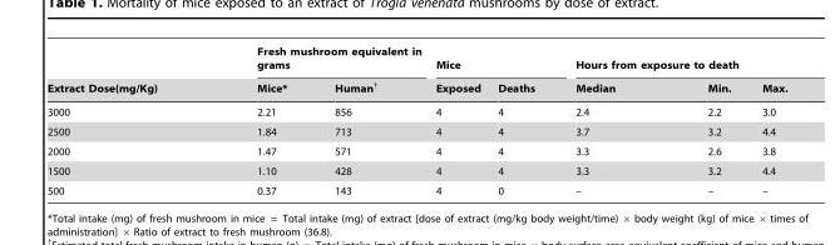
<table><thead><tr><td rowspan="2">Extract Dose(mg/Kg)</td><td colspan="2">Fresh mushroom equivalent in grams</td><td colspan="2">Mice</td><td colspan="3">Hours from exposure to death</td></tr><tr><td>Mice*</td><td>Human†</td><td>Exposed</td><td>Deaths</td><td>Median</td><td>Min.</td><td>Max.</td></tr></thead><tbody><tr><td>3000</td><td>2.21</td><td>856</td><td>4</td><td>4</td><td>2.4</td><td>2.2</td><td>3.0</td></tr><tr><td>2500</td><td>1.84</td><td>713</td><td>4</td><td>4</td><td>3.7</td><td>3.2</td><td>4.4</td></tr><tr><td>2000</td><td>1.47</td><td>571</td><td>4</td><td>4</td><td>3.3</td><td>2.6</td><td>3.8</td></tr><tr><td>1500</td><td>1.10</td><td>428</td><td>4</td><td>4</td><td>3.3</td><td>3.2</td><td>4.4</td></tr><tr><td>500</td><td>0.37</td><td>143</td><td>4</td><td>0</td><td>–</td><td>–</td><td>–</td></tr></tbody></table>